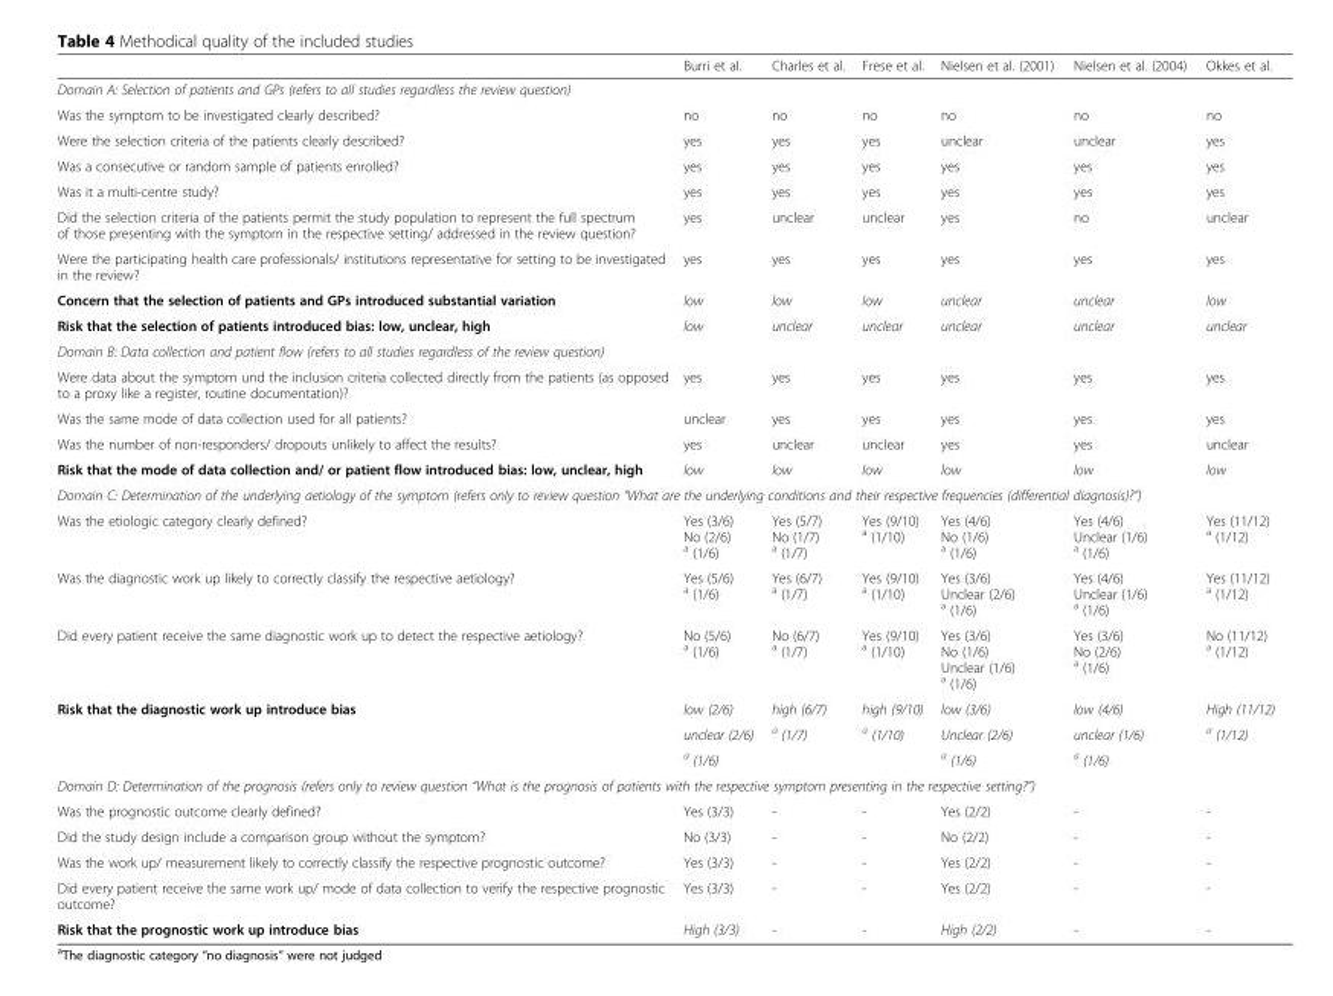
<table><thead><tr><td></td><td>Burri et al.</td><td>Charles et al.</td><td>Frese et al.</td><td>Nielsen et al. (2001)</td><td>Nielsen et al. (2004)</td><td>Okkes et al.</td></tr></thead><tbody><tr><td colspan="7">Domain A: Selection of patients and GPs (refers to all studies regardless the review question)</td></tr><tr><td>Was the symptom to be investigated clearly described?</td><td>no</td><td>no</td><td>no</td><td>no</td><td>no</td><td>no</td></tr><tr><td>Were the selection criteria of the patients clearly described?</td><td>yes</td><td>yes</td><td>yes</td><td>unclear</td><td>unclear</td><td>yes</td></tr><tr><td>Was a consecutive or random sample of patients enrolled?</td><td>yes</td><td>yes</td><td>yes</td><td>yes</td><td>yes</td><td>yes</td></tr><tr><td>Was it a multi-centre study?</td><td>yes</td><td>yes</td><td>yes</td><td>yes</td><td>yes</td><td>yes</td></tr><tr><td>Did the selection criteria of the patients permit the study population to represent the full spectrum of those presenting with the symptom in the respective setting/ addressed in the review question?</td><td>yes</td><td>unclear</td><td>unclear</td><td>yes</td><td>no</td><td>unclear</td></tr><tr><td>Were the participating health care professionals/ institutions representative for setting to be investigated in the review?</td><td>yes</td><td>yes</td><td>yes</td><td>yes</td><td>yes</td><td>yes</td></tr><tr><td>Concern that the selection of patients and GPs introduced substantial variation</td><td>low</td><td>low</td><td>low</td><td>unclear</td><td>unclear</td><td>low</td></tr><tr><td>Risk that the selection of patients introduced bias: low, unclear, high</td><td>low</td><td>unclear</td><td>unclear</td><td>unclear</td><td>unclear</td><td>unclear</td></tr><tr><td colspan="7">Domain B: Data collection and patient flow (refers to all studies regardless of the review question)</td></tr><tr><td>Were data about the symptom und the inclusion criteria collected directly from the patients (as opposed to a proxy like a register, routine documentation)?</td><td>yes</td><td>yes</td><td>yes</td><td>yes</td><td>yes</td><td>yes</td></tr><tr><td>Was the same mode of data collection used for all patients?</td><td>unclear</td><td>yes</td><td>yes</td><td>yes</td><td>yes</td><td>yes</td></tr><tr><td>Was the number of non-responders/ dropouts unlikely to affect the results?</td><td>yes</td><td>unclear</td><td>unclear</td><td>yes</td><td>yes</td><td>unclear</td></tr><tr><td>Risk that the mode of data collection and/ or patient flow introduced bias: low, unclear, high</td><td>low</td><td>low</td><td>low</td><td>low</td><td>low</td><td>low</td></tr><tr><td colspan="7">Domain C: Determination of the underlying aetiology of the symptom (refers only to review question “What are the underlying conditions and their respective frequencies (differential diagnosis)?”)</td></tr><tr><td>Was the etiologic category clearly defined?</td><td>Yes (3/6) No (2/6) <sup>a</sup> (1/6)</td><td>Yes (5/7) No (1/7) <sup>a</sup> (1/7)</td><td>Yes (9/10) <sup>a</sup> (1/10)</td><td>Yes (4/6) No (1/6) <sup>a</sup> (1/6)</td><td>Yes (4/6) Unclear (1/6) <sup>a</sup> (1/6)</td><td>Yes (11/12) <sup>a</sup> (1/12)</td></tr><tr><td>Was the diagnostic work up likely to correctly classify the respective aetiology?</td><td>Yes (5/6) <sup>a</sup> (1/6)</td><td>Yes (6/7) <sup>a</sup> (1/7)</td><td>Yes (9/10) <sup>a</sup> (1/10)</td><td>Yes (3/6) Unclear (2/6) <sup>a</sup> (1/6)</td><td>Yes (4/6) Unclear (1/6) <sup>a</sup> (1/6)</td><td>Yes (11/12) <sup>a</sup> (1/12)</td></tr><tr><td>Did every patient receive the same diagnostic work up to detect the respective aetiology?</td><td>No (5/6) <sup>a</sup> (1/6)</td><td>No (6/7) <sup>a</sup> (1/7)</td><td>Yes (9/10) <sup>a</sup> (1/10)</td><td>Yes (3/6) No (1/6) Unclear (1/6) <sup>a</sup> (1/6)</td><td>Yes (3/6) No (2/6) <sup>a</sup> (1/6)</td><td>No (11/12) <sup>a</sup> (1/12)</td></tr><tr><td rowspan="3">Risk that the diagnostic work up introduce bias</td><td>low (2/6)</td><td>high (6/7)</td><td>high (9/10)</td><td>low (3/6)</td><td>low (4/6)</td><td>High (11/12)</td></tr><tr><td>unclear (2/6)</td><td rowspan="2"><sup>a</sup> (1/7)</td><td rowspan="2"><sup>a</sup> (1/10)</td><td>Unclear (2/6)</td><td>unclear (1/6)</td><td rowspan="2"><sup>a</sup> (1/12)</td></tr><tr><td><sup>a</sup> (1/6)</td><td><sup>a</sup> (1/6)</td><td><sup>a</sup> (1/6)</td></tr><tr><td colspan="7">Domain D: Determination of the prognosis (refers only to review question “What is the prognosis of patients with the respective symptom presenting in the respective setting?”)</td></tr><tr><td>Was the prognostic outcome clearly defined?</td><td>Yes (3/3)</td><td>-</td><td>-</td><td>Yes (2/2)</td><td>-</td><td>-</td></tr><tr><td>Did the study design include a comparison group without the symptom?</td><td>No (3/3)</td><td>-</td><td>-</td><td>No (2/2)</td><td>-</td><td>-</td></tr><tr><td>Was the work up/ measurement likely to correctly classify the respective prognostic outcome?</td><td>Yes (3/3)</td><td>-</td><td>-</td><td>Yes (2/2)</td><td>-</td><td>-</td></tr><tr><td>Did every patient receive the same work up/ mode of data collection to verify the respective prognostic outcome?</td><td>Yes (3/3)</td><td>-</td><td>-</td><td>Yes (2/2)</td><td>-</td><td>-</td></tr><tr><td>Risk that the prognostic work up introduce bias</td><td>High (3/3)</td><td>-</td><td>-</td><td>High (2/2)</td><td>-</td><td>-</td></tr></tbody></table>